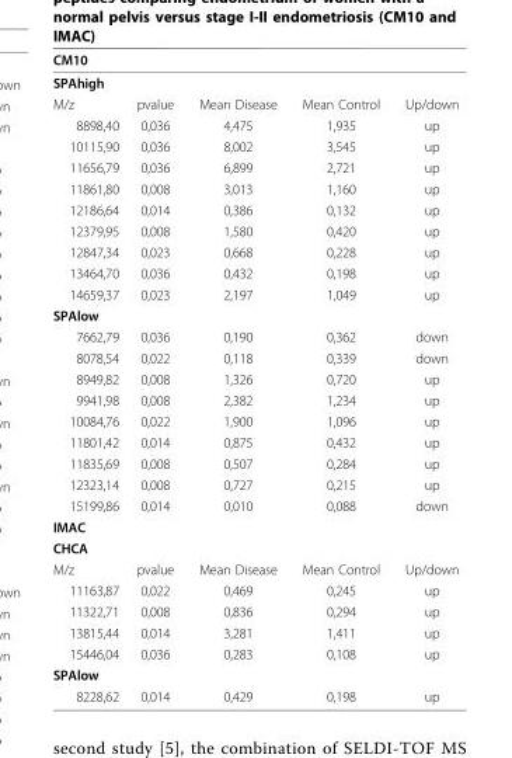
<table><thead><tr><td>CM10</td><td></td><td></td><td></td><td></td></tr></thead><tbody><tr><td colspan="5">SPAhigh</td></tr><tr><td>M/z</td><td>pvalue</td><td>Mean Disease</td><td>Mean Control</td><td>Up/down</td></tr><tr><td>8898,40</td><td>0,036</td><td>4,475</td><td>1,935</td><td>up</td></tr><tr><td>10115,90</td><td>0,036</td><td>8,002</td><td>3,545</td><td>up</td></tr><tr><td>11656,79</td><td>0,036</td><td>6,899</td><td>2,721</td><td>up</td></tr><tr><td>11861,80</td><td>0,008</td><td>3,013</td><td>1,160</td><td>up</td></tr><tr><td>12186,64</td><td>0,014</td><td>0,386</td><td>0,132</td><td>up</td></tr><tr><td>12379,95</td><td>0,008</td><td>1,580</td><td>0,420</td><td>up</td></tr><tr><td>12847,34</td><td>0,023</td><td>0,668</td><td>0,228</td><td>up</td></tr><tr><td>13464,70</td><td>0,036</td><td>0,432</td><td>0,198</td><td>up</td></tr><tr><td>14659,37</td><td>0,023</td><td>2,197</td><td>1,049</td><td>up</td></tr><tr><td colspan="5">SPAlow</td></tr><tr><td>7662,79</td><td>0,036</td><td>0,190</td><td>0,362</td><td>down</td></tr><tr><td>8078,54</td><td>0,022</td><td>0,118</td><td>0,339</td><td>down</td></tr><tr><td>8949,82</td><td>0,008</td><td>1,326</td><td>0,720</td><td>up</td></tr><tr><td>9941,98</td><td>0,008</td><td>2,382</td><td>1,234</td><td>up</td></tr><tr><td>10084,76</td><td>0,022</td><td>1,900</td><td>1,096</td><td>up</td></tr><tr><td>11801,42</td><td>0,014</td><td>0,875</td><td>0,432</td><td>up</td></tr><tr><td>11835,69</td><td>0,008</td><td>0,507</td><td>0,284</td><td>up</td></tr><tr><td>12323,14</td><td>0,008</td><td>0,727</td><td>0,215</td><td>up</td></tr><tr><td>15199,86</td><td>0,014</td><td>0,010</td><td>0,088</td><td>down</td></tr><tr><td colspan="5">IMAC</td></tr><tr><td colspan="5">CHCA</td></tr><tr><td>M/z</td><td>pvalue</td><td>Mean Disease</td><td>Mean Control</td><td>Up/down</td></tr><tr><td>11163,87</td><td>0,022</td><td>0,469</td><td>0,245</td><td>up</td></tr><tr><td>11322,71</td><td>0,008</td><td>0,836</td><td>0,294</td><td>up</td></tr><tr><td>13815,44</td><td>0,014</td><td>3,281</td><td>1,411</td><td>up</td></tr><tr><td>15446,04</td><td>0,036</td><td>0,283</td><td>0,108</td><td>up</td></tr><tr><td colspan="5">SPAlow</td></tr><tr><td>8228,62</td><td>0,014</td><td>0,429</td><td>0,198</td><td>up</td></tr></tbody></table>